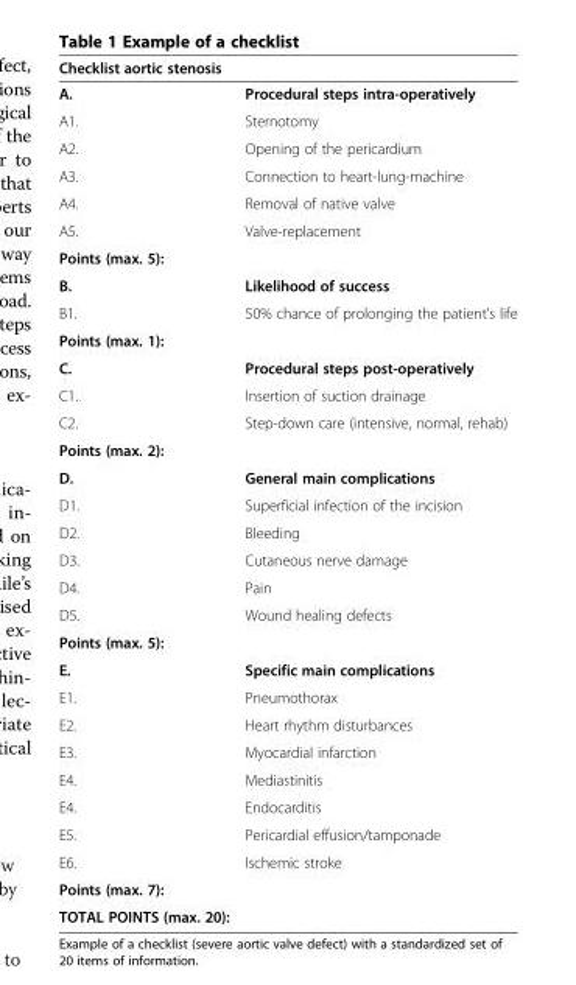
<table><thead><tr><td colspan="2">Checklist aortic stenosis</td></tr><tr><td>A.</td><td>Procedural steps intra-operatively</td></tr></thead><tbody><tr><td>A1.</td><td>Sternotomy</td></tr><tr><td>A2.</td><td>Opening of the pericardium</td></tr><tr><td>A3.</td><td>Connection to heart-lung-machine</td></tr><tr><td>A4.</td><td>Removal of native valve</td></tr><tr><td>A5.</td><td>Valve-replacement</td></tr><tr><td colspan="2">Points (max. 5):</td></tr><tr><td>B.</td><td>Likelihood of success</td></tr><tr><td>B1.</td><td>50% chance of prolonging the patient’s life</td></tr><tr><td colspan="2">Points (max. 1):</td></tr><tr><td>C.</td><td>Procedural steps post-operatively</td></tr><tr><td>C1.</td><td>Insertion of suction drainage</td></tr><tr><td>C2.</td><td>Step-down care (intensive, normal, rehab)</td></tr><tr><td colspan="2">Points (max. 2):</td></tr><tr><td>D.</td><td>General main complications</td></tr><tr><td>D1.</td><td>Superficial infection of the incision</td></tr><tr><td>D2.</td><td>Bleeding</td></tr><tr><td>D3.</td><td>Cutaneous nerve damage</td></tr><tr><td>D4.</td><td>Pain</td></tr><tr><td>D5.</td><td>Wound healing defects</td></tr><tr><td colspan="2">Points (max. 5):</td></tr><tr><td>E.</td><td>Specific main complications</td></tr><tr><td>E1.</td><td>Pneumothorax</td></tr><tr><td>E2.</td><td>Heart rhythm disturbances</td></tr><tr><td>E3.</td><td>Myocardial infarction</td></tr><tr><td>E4.</td><td>Mediastinitis</td></tr><tr><td>E4.</td><td>Endocarditis</td></tr><tr><td>E5.</td><td>Pericardial effusion/tamponade</td></tr><tr><td>E6.</td><td>Ischemic stroke</td></tr><tr><td colspan="2">Points (max. 7):</td></tr><tr><td colspan="2">TOTAL POINTS (max. 20):</td></tr></tbody></table>